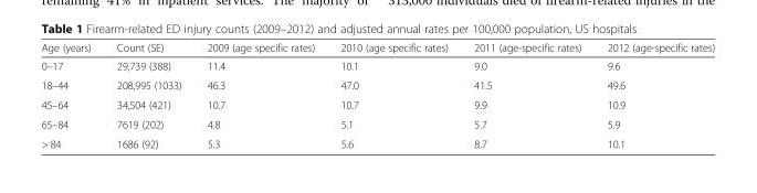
<table><thead><tr><td>Age (years)</td><td>Count (SE)</td><td>2009 (age specific rates)</td><td>2010 (age specific rates)</td><td>2011 (age-specific rates)</td><td>2012 (age-specific rates)</td></tr></thead><tbody><tr><td>0–17</td><td>29,739 (388)</td><td>11.4</td><td>10.1</td><td>9.0</td><td>9.6</td></tr><tr><td>18–44</td><td>208,995 (1033)</td><td>46.3</td><td>47.0</td><td>41.5</td><td>49.6</td></tr><tr><td>45–64</td><td>34,504 (421)</td><td>10.7</td><td>10.7</td><td>9.9</td><td>10.9</td></tr><tr><td>65–84</td><td>7619 (202)</td><td>4.8</td><td>5.1</td><td>5.7</td><td>5.9</td></tr><tr><td>&gt; 84</td><td>1686 (92)</td><td>5.3</td><td>5.6</td><td>8.7</td><td>10.1</td></tr></tbody></table>